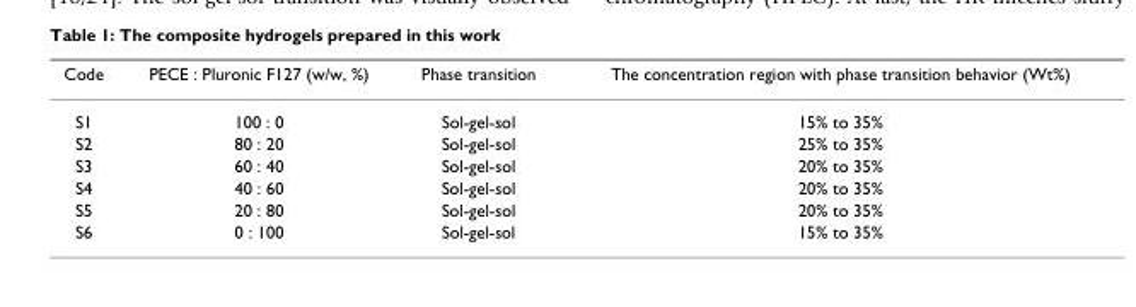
<table><thead><tr><td>Code</td><td>PECE : Pluronic F127 (w/w, %)</td><td>Phase transition</td><td>The concentration region with phase transition behavior (Wt%)</td></tr></thead><tbody><tr><td>S1</td><td>100 : 0</td><td>Sol-gel-sol</td><td>15% to 35%</td></tr><tr><td>S2</td><td>80 : 20</td><td>Sol-gel-sol</td><td>25% to 35%</td></tr><tr><td>S3</td><td>60 : 40</td><td>Sol-gel-sol</td><td>20% to 35%</td></tr><tr><td>S4</td><td>40 : 60</td><td>Sol-gel-sol</td><td>20% to 35%</td></tr><tr><td>S5</td><td>20 : 80</td><td>Sol-gel-sol</td><td>20% to 35%</td></tr><tr><td>S6</td><td>0 : 100</td><td>Sol-gel-sol</td><td>15% to 35%</td></tr></tbody></table>